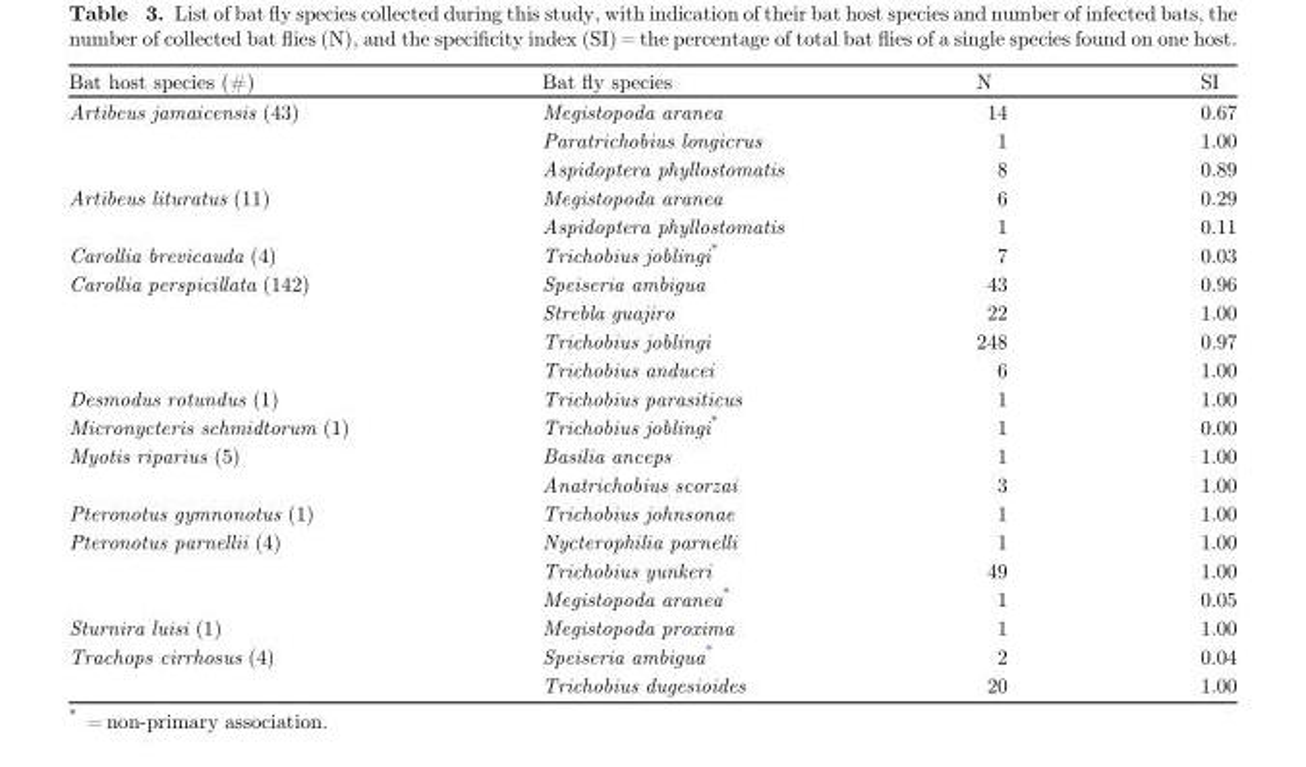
<table><thead><tr><td>Bat host species (#)</td><td>Bat fly species</td><td>N</td><td>SI</td></tr></thead><tbody><tr><td rowspan="3">Artibeus jamaicensis (43)</td><td>Megistopoda aranea</td><td>14</td><td>0.67</td></tr><tr><td>Paratrichobius longicrus</td><td>1</td><td>1.00</td></tr><tr><td>Aspidoptera phyllostomatis</td><td>8</td><td>0.89</td></tr><tr><td rowspan="2">Artibeus lituratus (11)</td><td>Megistopoda aranea</td><td>6</td><td>0.29</td></tr><tr><td>Aspidoptera phyllostomatis</td><td>1</td><td>0.11</td></tr><tr><td>Carollia brevicauda (4)</td><td>Trichobius joblingi*</td><td>7</td><td>0.03</td></tr><tr><td rowspan="4">Carollia perspicillata (142)</td><td>Speiseria ambigua</td><td>43</td><td>0.96</td></tr><tr><td>Strebla guajiro</td><td>22</td><td>1.00</td></tr><tr><td>Trichobius joblingi</td><td>248</td><td>0.97</td></tr><tr><td>Trichobius anducei</td><td>6</td><td>1.00</td></tr><tr><td>Desmodus rotundus (1)</td><td>Trichobius parasiticus</td><td>1</td><td>1.00</td></tr><tr><td>Micronycteris schmidtorum (1)</td><td>Trichobius joblingi*</td><td>1</td><td>0.00</td></tr><tr><td rowspan="2">Myotis riparius (5)</td><td>Basilia anceps</td><td>1</td><td>1.00</td></tr><tr><td>Anatrichobius scorzai</td><td>3</td><td>1.00</td></tr><tr><td>Pteronotus gymnonotus (1)</td><td>Trichobius johnsonae</td><td>1</td><td>1.00</td></tr><tr><td rowspan="3">Pteronotus parnellii (4)</td><td>Nycterophilia parnelli</td><td>1</td><td>1.00</td></tr><tr><td>Trichobius yunkeri</td><td>49</td><td>1.00</td></tr><tr><td>Megistopoda aranea*</td><td>1</td><td>0.05</td></tr><tr><td>Sturnira luisi (1)</td><td>Megistopoda proxima</td><td>1</td><td>1.00</td></tr><tr><td rowspan="2">Trachops cirrhosus (4)</td><td>Speiseria ambigua*</td><td>2</td><td>0.04</td></tr><tr><td>Trichobius dugesioides</td><td>20</td><td>1.00</td></tr></tbody></table>